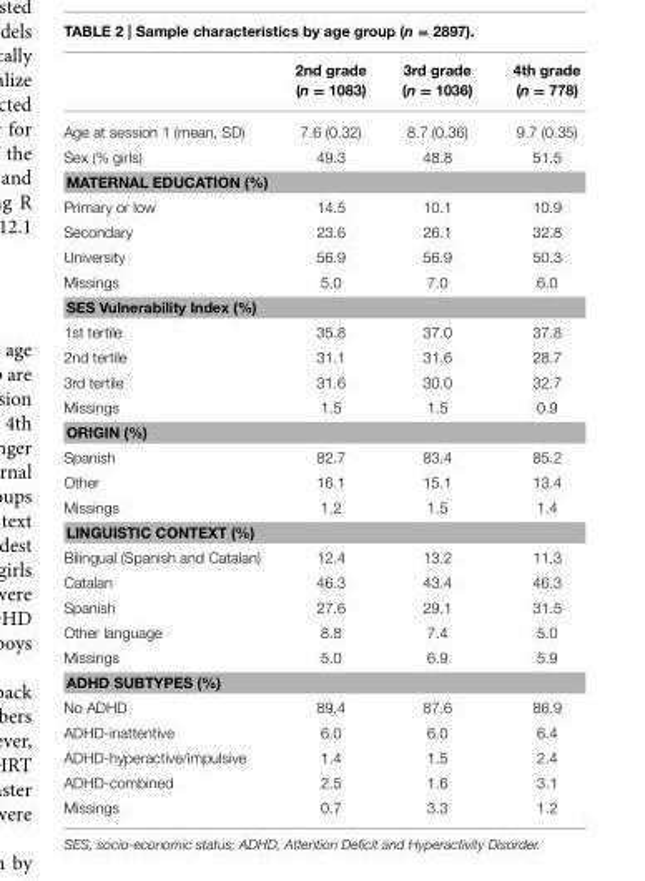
<table><thead><tr><td></td><td>2nd grade (n = 1083)</td><td>3rd grade (n = 1036)</td><td>4th grade (n = 778)</td></tr></thead><tbody><tr><td>Age at session 1 (mean, SD)</td><td>7.6 (0.32)</td><td>8.7 (0.36)</td><td>9.7 (0.35)</td></tr><tr><td>Sex (% girls)</td><td>49.3</td><td>48.8</td><td>51.5</td></tr><tr><td colspan="4">MATERNAL EDUCATION (%)</td></tr><tr><td>Primary or low</td><td>14.5</td><td>10.1</td><td>10.9</td></tr><tr><td>Secondary</td><td>23.6</td><td>26.1</td><td>32.8</td></tr><tr><td>University</td><td>56.9</td><td>56.9</td><td>50.3</td></tr><tr><td>Missings</td><td>5.0</td><td>7.0</td><td>6.0</td></tr><tr><td colspan="4">SES Vulnerability Index (%)</td></tr><tr><td>1st tertile</td><td>35.8</td><td>37.0</td><td>37.8</td></tr><tr><td>2nd tertile</td><td>31.1</td><td>31.6</td><td>28.7</td></tr><tr><td>3rd tertile</td><td>31.6</td><td>30.0</td><td>32.7</td></tr><tr><td>Missings</td><td>1.5</td><td>1.5</td><td>0.9</td></tr><tr><td colspan="4">ORIGIN (%)</td></tr><tr><td>Spanish</td><td>82.7</td><td>83.4</td><td>85.2</td></tr><tr><td>Other</td><td>16.1</td><td>15.1</td><td>13.4</td></tr><tr><td>Missings</td><td>1.2</td><td>1.5</td><td>1.4</td></tr><tr><td colspan="4">LINGUISTIC CONTEXT (%)</td></tr><tr><td>Bilingual (Spanish and Catalan)</td><td>12.4</td><td>13.2</td><td>11.3</td></tr><tr><td>Catalan</td><td>46.3</td><td>43.4</td><td>46.3</td></tr><tr><td>Spanish</td><td>27.6</td><td>29.1</td><td>31.5</td></tr><tr><td>Other language</td><td>8.8</td><td>7.4</td><td>5.0</td></tr><tr><td>Missings</td><td>5.0</td><td>6.9</td><td>5.9</td></tr><tr><td colspan="4">ADHD SUBTYPES (%)</td></tr><tr><td>No ADHD</td><td>89.4</td><td>87.6</td><td>86.9</td></tr><tr><td>ADHD-inattentive</td><td>6.0</td><td>6.0</td><td>6.4</td></tr><tr><td>ADHD-hyperactive/impulsive</td><td>1.4</td><td>1.5</td><td>2.4</td></tr><tr><td>ADHD-combined</td><td>2.5</td><td>1.6</td><td>3.1</td></tr><tr><td>Missings</td><td>0.7</td><td>3.3</td><td>1.2</td></tr></tbody></table>